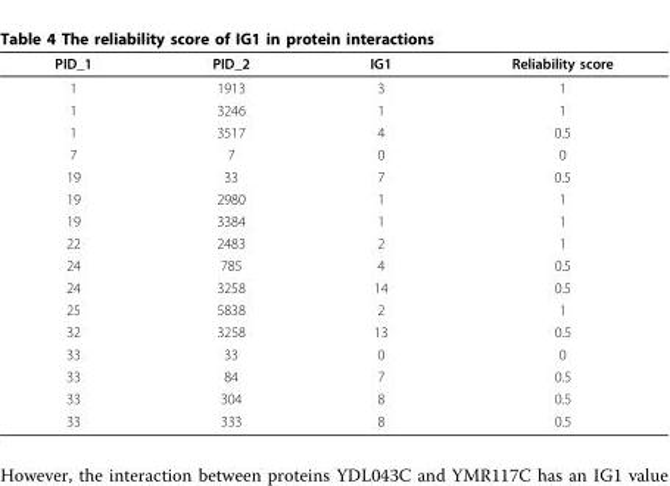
<table><thead><tr><td>PID_1</td><td>PID_2</td><td>IG1</td><td>Reliability score</td></tr></thead><tbody><tr><td>1</td><td>1913</td><td>3</td><td>1</td></tr><tr><td>1</td><td>3246</td><td>1</td><td>1</td></tr><tr><td>1</td><td>3517</td><td>4</td><td>0.5</td></tr><tr><td>7</td><td>7</td><td>0</td><td>0</td></tr><tr><td>19</td><td>33</td><td>7</td><td>0.5</td></tr><tr><td>19</td><td>2980</td><td>1</td><td>1</td></tr><tr><td>19</td><td>3384</td><td>1</td><td>1</td></tr><tr><td>22</td><td>2483</td><td>2</td><td>1</td></tr><tr><td>24</td><td>785</td><td>4</td><td>0.5</td></tr><tr><td>24</td><td>3258</td><td>14</td><td>0.5</td></tr><tr><td>25</td><td>5838</td><td>2</td><td>1</td></tr><tr><td>32</td><td>3258</td><td>13</td><td>0.5</td></tr><tr><td>33</td><td>33</td><td>0</td><td>0</td></tr><tr><td>33</td><td>84</td><td>7</td><td>0.5</td></tr><tr><td>33</td><td>304</td><td>8</td><td>0.5</td></tr><tr><td>33</td><td>333</td><td>8</td><td>0.5</td></tr></tbody></table>